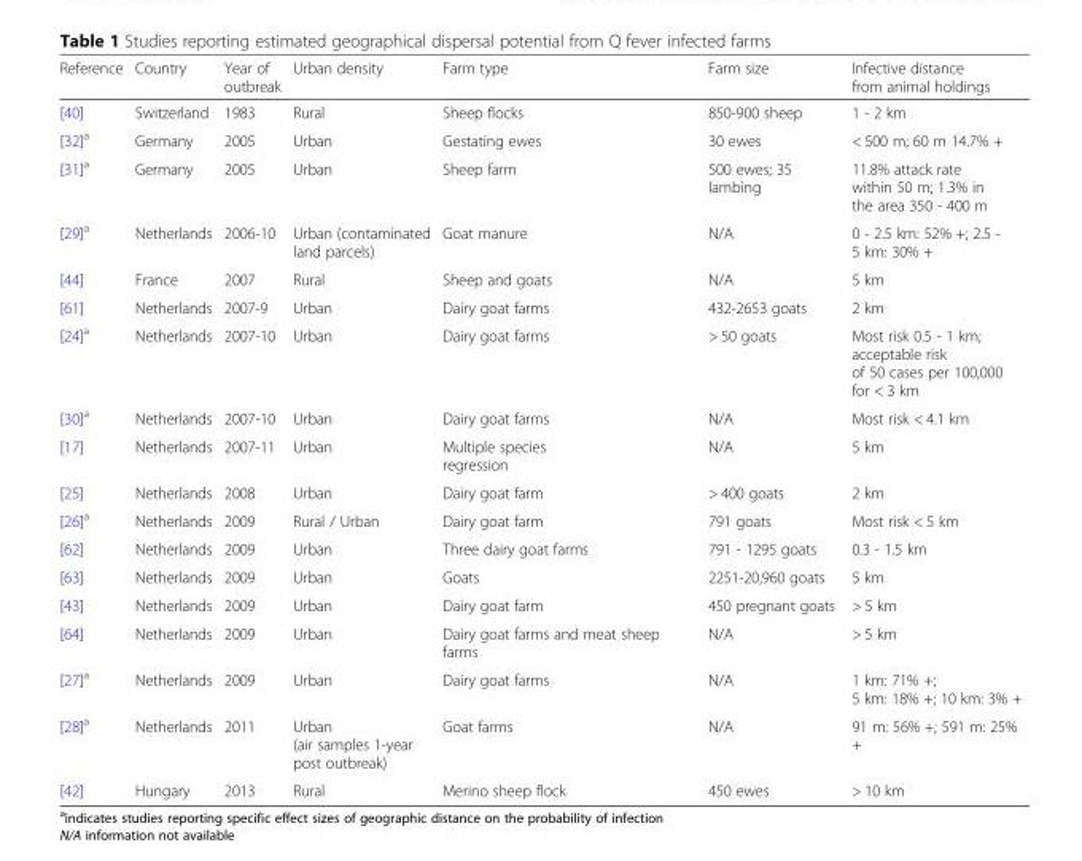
<table><thead><tr><td>Reference</td><td>Country</td><td>Year of outbreak</td><td>Urban density</td><td>Farm type</td><td>Farm size</td><td>Infective distance from animal holdings</td></tr></thead><tbody><tr><td>[40]</td><td>Switzerland</td><td>1983</td><td>Rural</td><td>Sheep flocks</td><td>850-900 sheep</td><td>1 - 2 km</td></tr><tr><td>[32]<sup>a</sup></td><td>Germany</td><td>2005</td><td>Urban</td><td>Gestating ewes</td><td>30 ewes</td><td>&lt; 500 m; 60 m 14.7% +</td></tr><tr><td>[31]<sup>a</sup></td><td>Germany</td><td>2005</td><td>Urban</td><td>Sheep farm</td><td>500 ewes; 35 lambing</td><td>11.8% attack rate within 50 m; 1.3% in the area 350 - 400 m</td></tr><tr><td>[29]<sup>a</sup></td><td>Netherlands</td><td>2006-10</td><td>Urban (contaminated land parcels)</td><td>Goat manure</td><td>N/A</td><td>0 - 2.5 km: 52% +; 2.5 - 5 km: 30% +</td></tr><tr><td>[44]</td><td>France</td><td>2007</td><td>Rural</td><td>Sheep and goats</td><td>N/A</td><td>5 km</td></tr><tr><td>[61]</td><td>Netherlands</td><td>2007-9</td><td>Urban</td><td>Dairy goat farms</td><td>432-2653 goats</td><td>2 km</td></tr><tr><td>[24]<sup>a</sup></td><td>Netherlands</td><td>2007-10</td><td>Urban</td><td>Dairy goat farms</td><td>&gt; 50 goats</td><td>Most risk 0.5 - 1 km; acceptable risk of 50 cases per 100,000 for &lt; 3 km</td></tr><tr><td>[30]<sup>a</sup></td><td>Netherlands</td><td>2007-10</td><td>Urban</td><td>Dairy goat farms</td><td>N/A</td><td>Most risk &lt; 4.1 km</td></tr><tr><td>[17]</td><td>Netherlands</td><td>2007-11</td><td>Urban</td><td>Multiple species regression</td><td>N/A</td><td>5 km</td></tr><tr><td>[25]</td><td>Netherlands</td><td>2008</td><td>Urban</td><td>Dairy goat farm</td><td>&gt; 400 goats</td><td>2 km</td></tr><tr><td>[26]<sup>a</sup></td><td>Netherlands</td><td>2009</td><td>Rural / Urban</td><td>Dairy goat farm</td><td>791 goats</td><td>Most risk &lt; 5 km</td></tr><tr><td>[62]</td><td>Netherlands</td><td>2009</td><td>Urban</td><td>Three dairy goat farms</td><td>791 - 1295 goats</td><td>0.3 - 1.5 km</td></tr><tr><td>[63]</td><td>Netherlands</td><td>2009</td><td>Urban</td><td>Goats</td><td>2251-20,960 goats</td><td>5 km</td></tr><tr><td>[43]</td><td>Netherlands</td><td>2009</td><td>Urban</td><td>Dairy goat farm</td><td>450 pregnant goats</td><td>&gt; 5 km</td></tr><tr><td>[64]</td><td>Netherlands</td><td>2009</td><td>Urban</td><td>Dairy goat farms and meat sheep farms</td><td>N/A</td><td>&gt; 5 km</td></tr><tr><td>[27]<sup>a</sup></td><td>Netherlands</td><td>2009</td><td>Urban</td><td>Dairy goat farms</td><td>N/A</td><td>1 km: 71% +; 5 km: 18% +; 10 km: 3% +</td></tr><tr><td>[28]<sup>a</sup></td><td>Netherlands</td><td>2011</td><td>Urban (air samples 1-year post outbreak)</td><td>Goat farms</td><td>N/A</td><td>91 m: 56% +; 591 m: 25% +</td></tr><tr><td>[42]</td><td>Hungary</td><td>2013</td><td>Rural</td><td>Merino sheep flock</td><td>450 ewes</td><td>&gt; 10 km</td></tr></tbody></table>